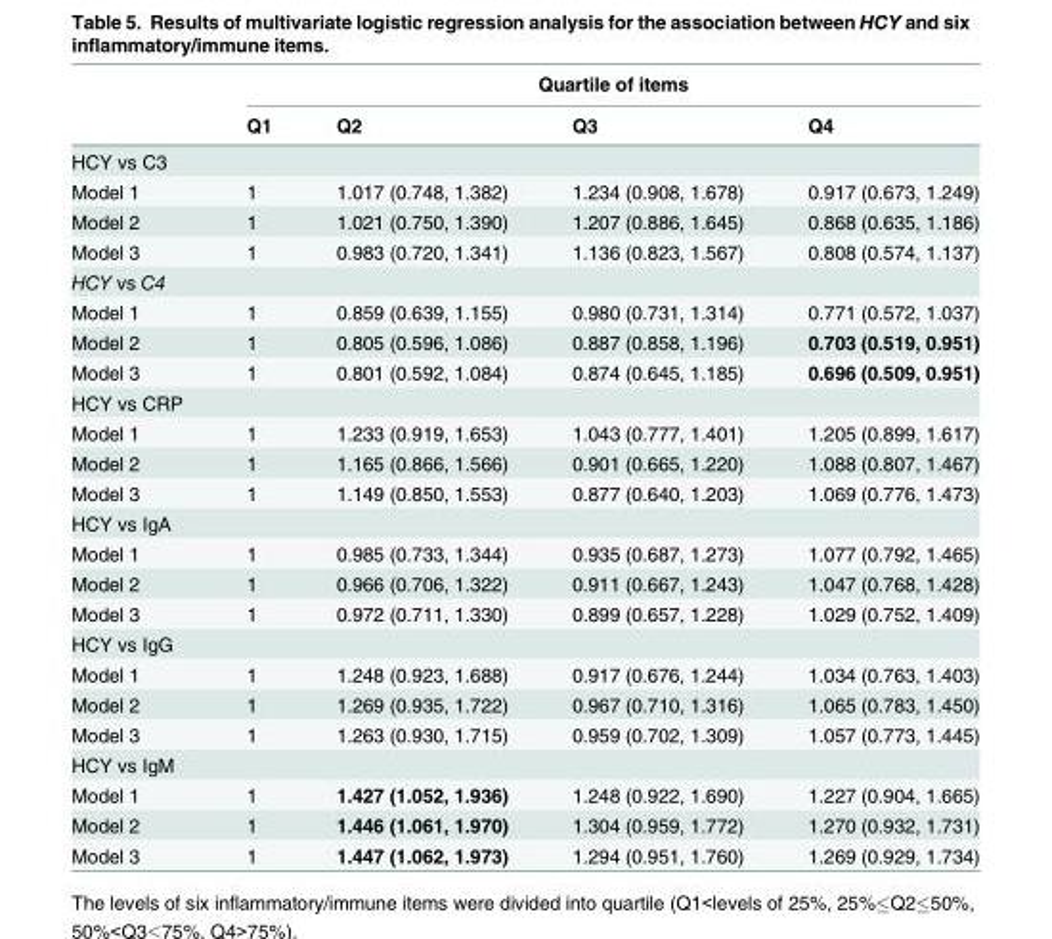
<table><thead><tr><td rowspan="2"></td><td colspan="4">Quartile of items</td></tr><tr><td>Q1</td><td>Q2</td><td>Q3</td><td>Q4</td></tr></thead><tbody><tr><td colspan="5">HCY vs C3</td></tr><tr><td>Model 1</td><td>1</td><td>1.017 (0.748, 1.382)</td><td>1.234 (0.908, 1.678)</td><td>0.917 (0.673, 1.249)</td></tr><tr><td>Model 2</td><td>1</td><td>1.021 (0.750, 1.390)</td><td>1.207 (0.886, 1.645)</td><td>0.868 (0.635, 1.186)</td></tr><tr><td>Model 3</td><td>1</td><td>0.983 (0.720, 1.341)</td><td>1.136 (0.823, 1.567)</td><td>0.808 (0.574, 1.137)</td></tr><tr><td colspan="5">HCY vs C4</td></tr><tr><td>Model 1</td><td>1</td><td>0.859 (0.639, 1.155)</td><td>0.980 (0.731, 1.314)</td><td>0.771 (0.572, 1.037)</td></tr><tr><td>Model 2</td><td>1</td><td>0.805 (0.596, 1.086)</td><td>0.887 (0.858, 1.196)</td><td>0.703 (0.519, 0.951)</td></tr><tr><td>Model 3</td><td>1</td><td>0.801 (0.592, 1.084)</td><td>0.874 (0.645, 1.185)</td><td>0.696 (0.509, 0.951)</td></tr><tr><td colspan="5">HCY vs CRP</td></tr><tr><td>Model 1</td><td>1</td><td>1.233 (0.919, 1.653)</td><td>1.043 (0.777, 1.401)</td><td>1.205 (0.899, 1.617)</td></tr><tr><td>Model 2</td><td>1</td><td>1.165 (0.866, 1.566)</td><td>0.901 (0.665, 1.220)</td><td>1.088 (0.807, 1.467)</td></tr><tr><td>Model 3</td><td>1</td><td>1.149 (0.850, 1.553)</td><td>0.877 (0.640, 1.203)</td><td>1.069 (0.776, 1.473)</td></tr><tr><td colspan="5">HCY vs IgA</td></tr><tr><td>Model 1</td><td>1</td><td>0.985 (0.733, 1.344)</td><td>0.935 (0.687, 1.273)</td><td>1.077 (0.792, 1.465)</td></tr><tr><td>Model 2</td><td>1</td><td>0.966 (0.706, 1.322)</td><td>0.911 (0.667, 1.243)</td><td>1.047 (0.768, 1.428)</td></tr><tr><td>Model 3</td><td>1</td><td>0.972 (0.711, 1.330)</td><td>0.899 (0.657, 1.228)</td><td>1.029 (0.752, 1.409)</td></tr><tr><td colspan="5">HCY vs IgG</td></tr><tr><td>Model 1</td><td>1</td><td>1.248 (0.923, 1.688)</td><td>0.917 (0.676, 1.244)</td><td>1.034 (0.763, 1.403)</td></tr><tr><td>Model 2</td><td>1</td><td>1.269 (0.935, 1.722)</td><td>0.967 (0.710, 1.316)</td><td>1.065 (0.783, 1.450)</td></tr><tr><td>Model 3</td><td>1</td><td>1.263 (0.930, 1.715)</td><td>0.959 (0.702, 1.309)</td><td>1.057 (0.773, 1.445)</td></tr><tr><td colspan="5">HCY vs IgM</td></tr><tr><td>Model 1</td><td>1</td><td>1.427 (1.052, 1.936)</td><td>1.248 (0.922, 1.690)</td><td>1.227 (0.904, 1.665)</td></tr><tr><td>Model 2</td><td>1</td><td>1.446 (1.061, 1.970)</td><td>1.304 (0.959, 1.772)</td><td>1.270 (0.932, 1.731)</td></tr><tr><td>Model 3</td><td>1</td><td>1.447 (1.062, 1.973)</td><td>1.294 (0.951, 1.760)</td><td>1.269 (0.929, 1.734)</td></tr></tbody></table>